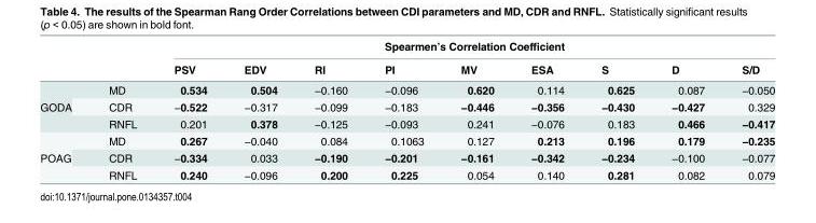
<table><thead><tr><td rowspan="2"></td><td rowspan="2"></td><td colspan="9">Spearmen’s Correlation Coefficient</td></tr><tr><td>PSV</td><td>EDV</td><td>RI</td><td>PI</td><td>MV</td><td>ESA</td><td>S</td><td>D</td><td>S/D</td></tr></thead><tbody><tr><td rowspan="3">GODA</td><td>MD</td><td>0.534</td><td>0.504</td><td>−0.160</td><td>−0.096</td><td>0.620</td><td>0.114</td><td>0.625</td><td>0.087</td><td>−0.050</td></tr><tr><td>CDR</td><td>−0.522</td><td>−0.317</td><td>−0.099</td><td>−0.183</td><td>−0.446</td><td>−0.356</td><td>−0.430</td><td>−0.427</td><td>0.329</td></tr><tr><td>RNFL</td><td>0.201</td><td>0.378</td><td>−0.125</td><td>−0.093</td><td>0.241</td><td>−0.076</td><td>0.183</td><td>0.466</td><td>−0.417</td></tr><tr><td rowspan="3">POAG</td><td>MD</td><td>0.267</td><td>−0.040</td><td>0.084</td><td>0.1063</td><td>0.127</td><td>0.213</td><td>0.196</td><td>0.179</td><td>−0.235</td></tr><tr><td>CDR</td><td>−0.334</td><td>0.033</td><td>−0.190</td><td>−0.201</td><td>−0.161</td><td>−0.342</td><td>−0.234</td><td>−0.100</td><td>−0.077</td></tr><tr><td>RNFL</td><td>0.240</td><td>−0.096</td><td>0.200</td><td>0.225</td><td>0.054</td><td>0.140</td><td>0.281</td><td>0.082</td><td>0.079</td></tr></tbody></table>